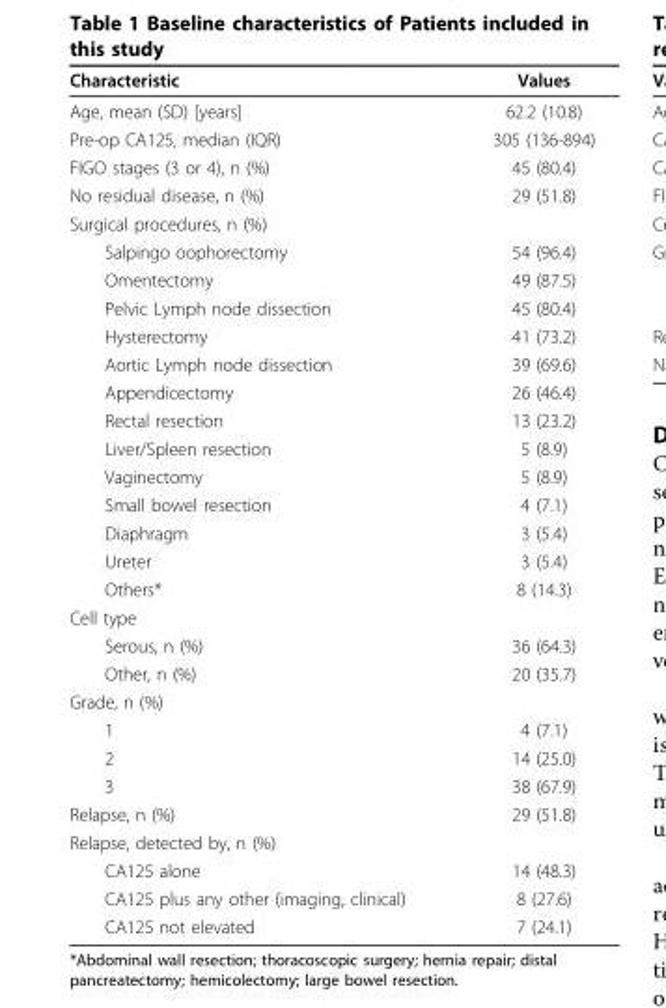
<table><thead><tr><td>Characteristic</td><td>Values</td></tr></thead><tbody><tr><td>Age, mean (SD) [years]</td><td>62.2 (10.8)</td></tr><tr><td>Pre-op CA125, median (IQR)</td><td>305 (136-894)</td></tr><tr><td>FIGO stages (3 or 4), n (%)</td><td>45 (80.4)</td></tr><tr><td>No residual disease, n (%)</td><td>29 (51.8)</td></tr><tr><td colspan="2">Surgical procedures, n (%)</td></tr><tr><td>Salpingo oophorectomy</td><td>54 (96.4)</td></tr><tr><td>Omentectomy</td><td>49 (87.5)</td></tr><tr><td>Pelvic Lymph node dissection</td><td>45 (80.4)</td></tr><tr><td>Hysterectomy</td><td>41 (73.2)</td></tr><tr><td>Aortic Lymph node dissection</td><td>39 (69.6)</td></tr><tr><td>Appendicectomy</td><td>26 (46.4)</td></tr><tr><td>Rectal resection</td><td>13 (23.2)</td></tr><tr><td>Liver/Spleen resection</td><td>5 (8.9)</td></tr><tr><td>Vaginectomy</td><td>5 (8.9)</td></tr><tr><td>Small bowel resection</td><td>4 (7.1)</td></tr><tr><td>Diaphragm</td><td>3 (5.4)</td></tr><tr><td>Ureter</td><td>3 (5.4)</td></tr><tr><td>Others*</td><td>8 (14.3)</td></tr><tr><td colspan="2">Cell type</td></tr><tr><td>Serous, n (%)</td><td>36 (64.3)</td></tr><tr><td>Other, n (%)</td><td>20 (35.7)</td></tr><tr><td colspan="2">Grade, n (%)</td></tr><tr><td>1</td><td>4 (7.1)</td></tr><tr><td>2</td><td>14 (25.0)</td></tr><tr><td>3</td><td>38 (67.9)</td></tr><tr><td>Relapse, n (%)</td><td>29 (51.8)</td></tr><tr><td colspan="2">Relapse, detected by, n (%)</td></tr><tr><td>CA125 alone</td><td>14 (48.3)</td></tr><tr><td>CA125 plus any other (imaging, clinical)</td><td>8 (27.6)</td></tr><tr><td>CA125 not elevated</td><td>7 (24.1)</td></tr></tbody></table>